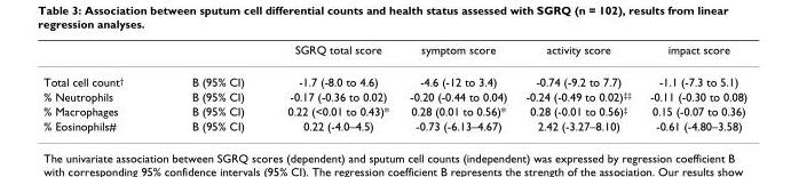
<table><thead><tr><td></td><td></td><td>SGRQ total score</td><td>symptom score</td><td>activity score</td><td>impact score</td></tr></thead><tbody><tr><td>Total cell count<sup>†</sup></td><td>B (95% CI)</td><td>-1.7 (-8.0 to 4.6)</td><td>-4.6 (-12 to 3.4)</td><td>-0.74 (-9.2 to 7.7)</td><td>-1.1 (-7.3 to 5.1)</td></tr><tr><td>% Neutrophils</td><td>B (95% CI)</td><td>-0.17 (-0.36 to 0.02)</td><td>-0.20 (-0.44 to 0.04)</td><td>-0.24 (-0.49 to 0.02)<sup>‡‡</sup></td><td>-0.11 (-0.30 to 0.08)</td></tr><tr><td>% Macrophages</td><td>B (95% CI)</td><td>0.22 (&lt;0.01 to 0.43)*</td><td>0.28 (0.01 to 0.56)*</td><td>0.28 (-0.01 to 0.56)<sup>‡</sup></td><td>0.15 (-0.07 to 0.36)</td></tr><tr><td>% Eosinophils#</td><td>B (95% CI)</td><td>0.22 (-4.0–4.5)</td><td>-0.73 (-6.13–4.67)</td><td>2.42 (-3.27–8.10)</td><td>-0.61 (-4.80–3.58)</td></tr></tbody></table>